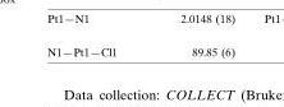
<table><tbody><tr><td>N1—Pt1—Cl1</td><td>89.85 (6)</td></tr></tbody></table>